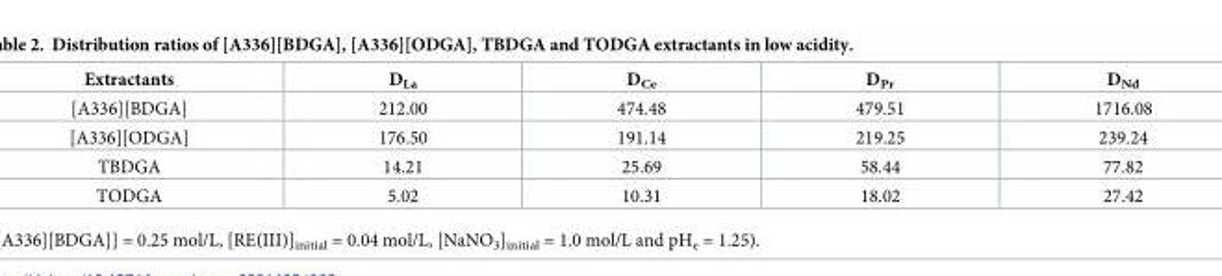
<table><thead><tr><td>Extractants</td><td>D<sub>La</sub></td><td>D<sub>Ce</sub></td><td>D<sub>Pr</sub></td><td>D<sub>Nd</sub></td></tr></thead><tbody><tr><td>[A336][BDGA]</td><td>212.00</td><td>474.48</td><td>479.51</td><td>1716.08</td></tr><tr><td>[A336][ODGA]</td><td>176.50</td><td>191.14</td><td>219.25</td><td>239.24</td></tr><tr><td>TBDGA</td><td>14.21</td><td>25.69</td><td>58.44</td><td>77.82</td></tr><tr><td>TODGA</td><td>5.02</td><td>10.31</td><td>18.02</td><td>27.42</td></tr></tbody></table>